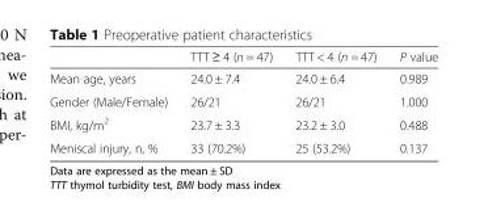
<table><thead><tr><td></td><td>TTT ≥ 4 (n = 47)</td><td>TTT &lt; 4 (n = 47)</td><td>P value</td></tr></thead><tbody><tr><td>Mean age, years</td><td>24.0 ± 7.4</td><td>24.0 ± 6.4</td><td>0.989</td></tr><tr><td>Gender (Male/Female)</td><td>26/21</td><td>26/21</td><td>1.000</td></tr><tr><td>BMI, kg/m<sup>2</sup></td><td>23.7 ± 3.3</td><td>23.2 ± 3.0</td><td>0.488</td></tr><tr><td>Meniscal injury, n, %</td><td>33 (70.2%)</td><td>25 (53.2%)</td><td>0.137</td></tr></tbody></table>